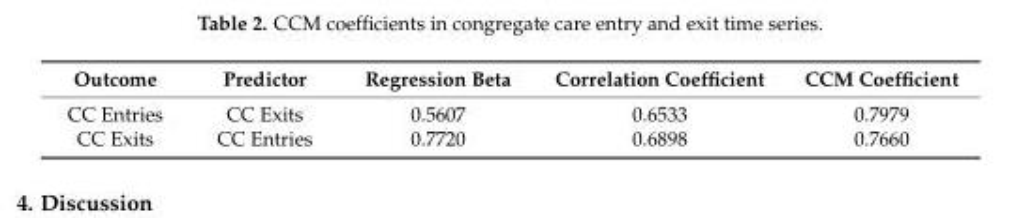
<table><thead><tr><td>Outcome</td><td>Predictor</td><td>Regression Beta</td><td>Correlation Coefficient</td><td>CCM Coefficient</td></tr></thead><tbody><tr><td>CC Entries</td><td>CC Exits</td><td>0.5607</td><td>0.6533</td><td>0.7979</td></tr><tr><td>CC Exits</td><td>CC Entries</td><td>0.7720</td><td>0.6898</td><td>0.7660</td></tr></tbody></table>